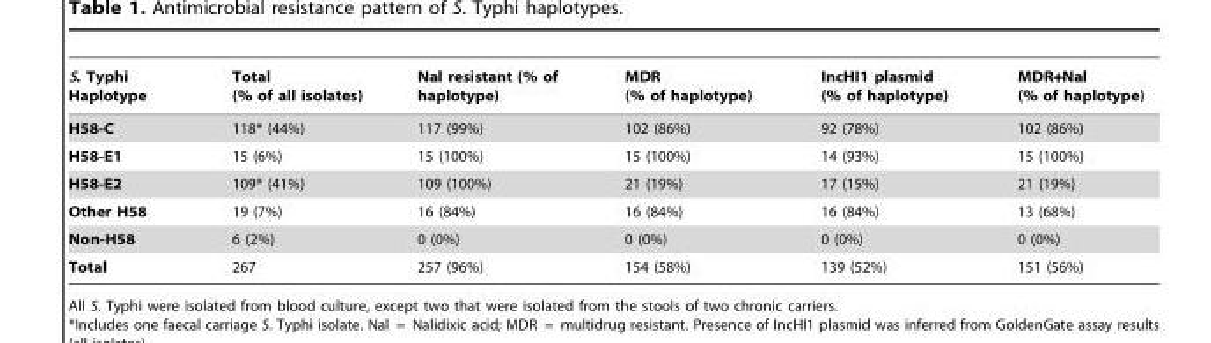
<table><thead><tr><td>S. Typhi Haplotype</td><td>Total (% of all isolates)</td><td>Nal resistant (% of haplotype)</td><td>MDR (% of haplotype)</td><td>IncHI1 plasmid (% of haplotype)</td><td>MDR+Nal (% of haplotype)</td></tr></thead><tbody><tr><td>H58-C</td><td>118* (44%)</td><td>117 (99%)</td><td>102 (86%)</td><td>92 (78%)</td><td>102 (86%)</td></tr><tr><td>H58-E1</td><td>15 (6%)</td><td>15 (100%)</td><td>15 (100%)</td><td>14 (93%)</td><td>15 (100%)</td></tr><tr><td>H58-E2</td><td>109* (41%)</td><td>109 (100%)</td><td>21 (19%)</td><td>17 (15%)</td><td>21 (19%)</td></tr><tr><td>Other H58</td><td>19 (7%)</td><td>16 (84%)</td><td>16 (84%)</td><td>16 (84%)</td><td>13 (68%)</td></tr><tr><td>Non-H58</td><td>6 (2%)</td><td>0 (0%)</td><td>0 (0%)</td><td>0 (0%)</td><td>0 (0%)</td></tr><tr><td>Total</td><td>267</td><td>257 (96%)</td><td>154 (58%)</td><td>139 (52%)</td><td>151 (56%)</td></tr></tbody></table>